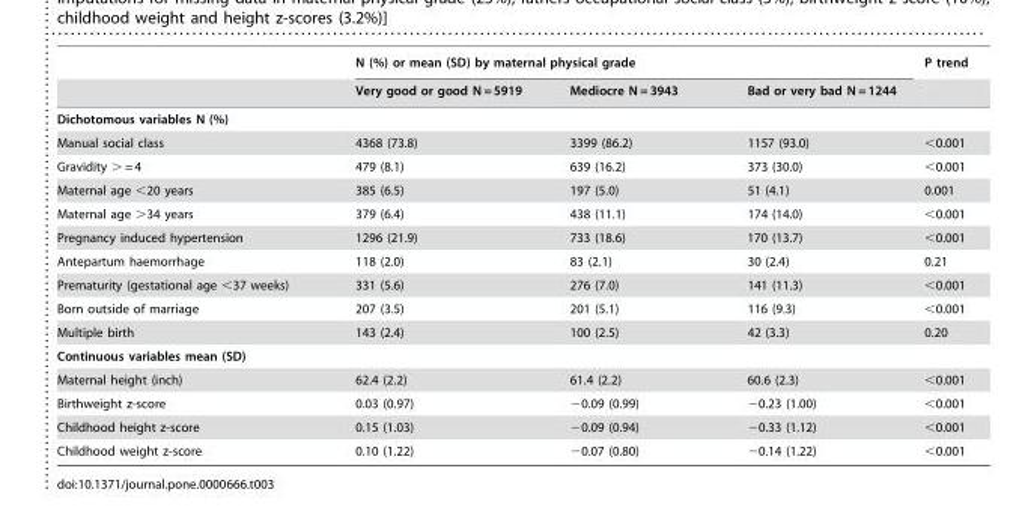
<table><thead><tr><td rowspan="2"></td><td colspan="3">N (%) or mean (SD) by maternal physical grade</td><td rowspan="2">P trend</td></tr><tr><td>Very good or good N = 5919</td><td>Mediocre N = 3943</td><td>Bad or very bad N = 1244</td></tr></thead><tbody><tr><td colspan="5">Dichotomous variables N (%)</td></tr><tr><td>Manual social class</td><td>4368 (73.8)</td><td>3399 (86.2)</td><td>1157 (93.0)</td><td>&lt;0.001</td></tr><tr><td>Gravidity &gt; = 4</td><td>479 (8.1)</td><td>639 (16.2)</td><td>373 (30.0)</td><td>&lt;0.001</td></tr><tr><td>Maternal age &lt;20 years</td><td>385 (6.5)</td><td>197 (5.0)</td><td>51 (4.1)</td><td>0.001</td></tr><tr><td>Maternal age &gt;34 years</td><td>379 (6.4)</td><td>438 (11.1)</td><td>174 (14.0)</td><td>&lt;0.001</td></tr><tr><td>Pregnancy induced hypertension</td><td>1296 (21.9)</td><td>733 (18.6)</td><td>170 (13.7)</td><td>&lt;0.001</td></tr><tr><td>Antepartum haemorrhage</td><td>118 (2.0)</td><td>83 (2.1)</td><td>30 (2.4)</td><td>0.21</td></tr><tr><td>Prematurity (gestational age &lt;37 weeks)</td><td>331 (5.6)</td><td>276 (7.0)</td><td>141 (11.3)</td><td>&lt;0.001</td></tr><tr><td>Born outside of marriage</td><td>207 (3.5)</td><td>201 (5.1)</td><td>116 (9.3)</td><td>&lt;0.001</td></tr><tr><td>Multiple birth</td><td>143 (2.4)</td><td>100 (2.5)</td><td>42 (3.3)</td><td>0.20</td></tr><tr><td colspan="5">Continuous variables mean (SD)</td></tr><tr><td>Maternal height (inch)</td><td>62.4 (2.2)</td><td>61.4 (2.2)</td><td>60.6 (2.3)</td><td>&lt;0.001</td></tr><tr><td>Birthweight z-score</td><td>0.03 (0.97)</td><td>−0.09 (0.99)</td><td>−0.23 (1.00)</td><td>&lt;0.001</td></tr><tr><td>Childhood height z-score</td><td>0.15 (1.03)</td><td>−0.09 (0.94)</td><td>−0.33 (1.12)</td><td>&lt;0.001</td></tr><tr><td>Childhood weight z-score</td><td>0.10 (1.22)</td><td>−0.07 (0.80)</td><td>−0.14 (1.22)</td><td>&lt;0.001</td></tr></tbody></table>